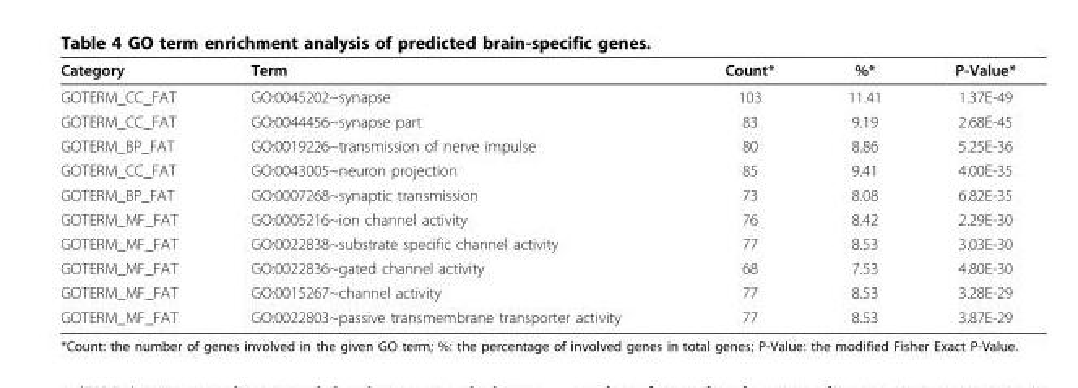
<table><thead><tr><td>Category</td><td>Term</td><td>Count*</td><td>%*</td><td>P-Value*</td></tr></thead><tbody><tr><td>GOTERM_CC_FAT</td><td>GO:0045202~synapse</td><td>103</td><td>11.41</td><td>1.37E-49</td></tr><tr><td>GOTERM_CC_FAT</td><td>GO:0044456~synapse part</td><td>83</td><td>9.19</td><td>2.68E-45</td></tr><tr><td>GOTERM_BP_FAT</td><td>GO:0019226~transmission of nerve impulse</td><td>80</td><td>8.86</td><td>5.25E-36</td></tr><tr><td>GOTERM_CC_FAT</td><td>GO:0043005~neuron projection</td><td>85</td><td>9.41</td><td>4.00E-35</td></tr><tr><td>GOTERM_BP_FAT</td><td>GO:0007268~synaptic transmission</td><td>73</td><td>8.08</td><td>6.82E-35</td></tr><tr><td>GOTERM_MF_FAT</td><td>GO:0005216~ion channel activity</td><td>76</td><td>8.42</td><td>2.29E-30</td></tr><tr><td>GOTERM_MF_FAT</td><td>GO:0022838~substrate specific channel activity</td><td>77</td><td>8.53</td><td>3.03E-30</td></tr><tr><td>GOTERM_MF_FAT</td><td>GO:0022836~gated channel activity</td><td>68</td><td>7.53</td><td>4.80E-30</td></tr><tr><td>GOTERM_MF_FAT</td><td>GO:0015267~channel activity</td><td>77</td><td>8.53</td><td>3.28E-29</td></tr><tr><td>GOTERM_MF_FAT</td><td>GO:0022803~passive transmembrane transporter activity</td><td>77</td><td>8.53</td><td>3.87E-29</td></tr></tbody></table>